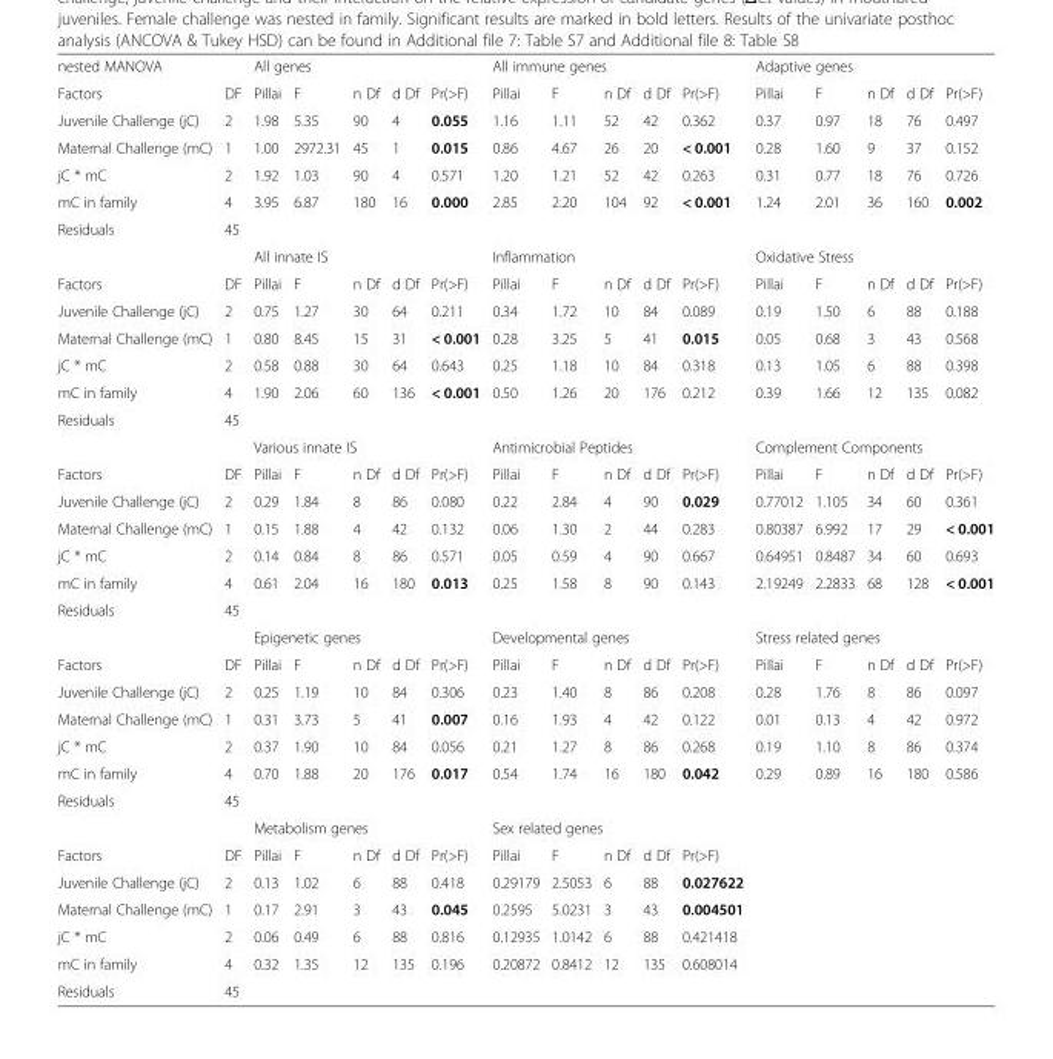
<table><tbody><tr><td>nested MANOVA</td><td></td><td colspan="5">All genes</td><td colspan="5">All immune genes</td><td colspan="5">Adaptive genes</td></tr><tr><td>Factors</td><td>DF</td><td>Pillai</td><td>F</td><td>n Df</td><td>d Df</td><td>Pr(&gt;F)</td><td>Pillai</td><td>F</td><td>n Df</td><td>d Df</td><td>Pr(&gt;F)</td><td>Pillai</td><td>F</td><td>n Df</td><td>d Df</td><td>Pr(&gt;F)</td></tr><tr><td>Juvenile Challenge (jC)</td><td>2</td><td>1.98</td><td>5.35</td><td>90</td><td>4</td><td>0.055</td><td>1.16</td><td>1.11</td><td>52</td><td>42</td><td>0.362</td><td>0.37</td><td>0.97</td><td>18</td><td>76</td><td>0.497</td></tr><tr><td>Maternal Challenge (mC)</td><td>1</td><td>1.00</td><td>2972.31</td><td>45</td><td>1</td><td>0.015</td><td>0.86</td><td>4.67</td><td>26</td><td>20</td><td>&lt; 0.001</td><td>0.28</td><td>1.60</td><td>9</td><td>37</td><td>0.152</td></tr><tr><td>jC * mC</td><td>2</td><td>1.92</td><td>1.03</td><td>90</td><td>4</td><td>0.571</td><td>1.20</td><td>1.21</td><td>52</td><td>42</td><td>0.263</td><td>0.31</td><td>0.77</td><td>18</td><td>76</td><td>0.726</td></tr><tr><td>mC in family</td><td>4</td><td>3.95</td><td>6.87</td><td>180</td><td>16</td><td>0.000</td><td>2.85</td><td>2.20</td><td>104</td><td>92</td><td>&lt; 0.001</td><td>1.24</td><td>2.01</td><td>36</td><td>160</td><td>0.002</td></tr><tr><td rowspan="2">Residuals</td><td>45</td><td></td><td></td><td></td><td></td><td></td><td></td><td></td><td></td><td></td><td></td><td></td><td></td><td></td><td></td><td></td></tr><tr><td></td><td colspan="5">All innate IS</td><td colspan="5">Inflammation</td><td colspan="5">Oxidative Stress</td></tr><tr><td>Factors</td><td>DF</td><td>Pillai</td><td>F</td><td>n Df</td><td>d Df</td><td>Pr(&gt;F)</td><td>Pillai</td><td>F</td><td>n Df</td><td>d Df</td><td>Pr(&gt;F)</td><td>Pillai</td><td>F</td><td>n Df</td><td>d Df</td><td>Pr(&gt;F)</td></tr><tr><td>Juvenile Challenge (jC)</td><td>2</td><td>0.75</td><td>1.27</td><td>30</td><td>64</td><td>0.211</td><td>0.34</td><td>1.72</td><td>10</td><td>84</td><td>0.089</td><td>0.19</td><td>1.50</td><td>6</td><td>88</td><td>0.188</td></tr><tr><td>Maternal Challenge (mC)</td><td>1</td><td>0.80</td><td>8.45</td><td>15</td><td>31</td><td>&lt; 0.001</td><td>0.28</td><td>3.25</td><td>5</td><td>41</td><td>0.015</td><td>0.05</td><td>0.68</td><td>3</td><td>43</td><td>0.568</td></tr><tr><td>jC * mC</td><td>2</td><td>0.58</td><td>0.88</td><td>30</td><td>64</td><td>0.643</td><td>0.25</td><td>1.18</td><td>10</td><td>84</td><td>0.318</td><td>0.13</td><td>1.05</td><td>6</td><td>88</td><td>0.398</td></tr><tr><td>mC in family</td><td>4</td><td>1.90</td><td>2.06</td><td>60</td><td>136</td><td>&lt; 0.001</td><td>0.50</td><td>1.26</td><td>20</td><td>176</td><td>0.212</td><td>0.39</td><td>1.66</td><td>12</td><td>135</td><td>0.082</td></tr><tr><td rowspan="2">Residuals</td><td>45</td><td></td><td></td><td></td><td></td><td></td><td></td><td></td><td></td><td></td><td></td><td></td><td></td><td></td><td></td><td></td></tr><tr><td></td><td colspan="5">Various innate IS</td><td colspan="5">Antimicrobial Peptides</td><td colspan="5">Complement Components</td></tr><tr><td>Factors</td><td>DF</td><td>Pillai</td><td>F</td><td>n Df</td><td>d Df</td><td>Pr(&gt;F)</td><td>Pillai</td><td>F</td><td>n Df</td><td>d Df</td><td>Pr(&gt;F)</td><td>Pillai</td><td>F</td><td>n Df</td><td>d Df</td><td>Pr(&gt;F)</td></tr><tr><td>Juvenile Challenge (jC)</td><td>2</td><td>0.29</td><td>1.84</td><td>8</td><td>86</td><td>0.080</td><td>0.22</td><td>2.84</td><td>4</td><td>90</td><td>0.029</td><td>0.77012</td><td>1.105</td><td>34</td><td>60</td><td>0.361</td></tr><tr><td>Maternal Challenge (mC)</td><td>1</td><td>0.15</td><td>1.88</td><td>4</td><td>42</td><td>0.132</td><td>0.06</td><td>1.30</td><td>2</td><td>44</td><td>0.283</td><td>0.80387</td><td>6.992</td><td>17</td><td>29</td><td>&lt; 0.001</td></tr><tr><td>jC * mC</td><td>2</td><td>0.14</td><td>0.84</td><td>8</td><td>86</td><td>0.571</td><td>0.05</td><td>0.59</td><td>4</td><td>90</td><td>0.667</td><td>0.64951</td><td>0.8487</td><td>34</td><td>60</td><td>0.693</td></tr><tr><td>mC in family</td><td>4</td><td>0.61</td><td>2.04</td><td>16</td><td>180</td><td>0.013</td><td>0.25</td><td>1.58</td><td>8</td><td>90</td><td>0.143</td><td>2.19249</td><td>2.2833</td><td>68</td><td>128</td><td>&lt; 0.001</td></tr><tr><td rowspan="2">Residuals</td><td>45</td><td></td><td></td><td></td><td></td><td></td><td></td><td></td><td></td><td></td><td></td><td></td><td></td><td></td><td></td><td></td></tr><tr><td></td><td colspan="5">Epigenetic genes</td><td colspan="5">Developmental genes</td><td colspan="5">Stress related genes</td></tr><tr><td>Factors</td><td>DF</td><td>Pillai</td><td>F</td><td>n Df</td><td>d Df</td><td>Pr(&gt;F)</td><td>Pillai</td><td>F</td><td>n Df</td><td>d Df</td><td>Pr(&gt;F)</td><td>Pillai</td><td>F</td><td>n Df</td><td>d Df</td><td>Pr(&gt;F)</td></tr><tr><td>Juvenile Challenge (jC)</td><td>2</td><td>0.25</td><td>1.19</td><td>10</td><td>84</td><td>0.306</td><td>0.23</td><td>1.40</td><td>8</td><td>86</td><td>0.208</td><td>0.28</td><td>1.76</td><td>8</td><td>86</td><td>0.097</td></tr><tr><td>Maternal Challenge (mC)</td><td>1</td><td>0.31</td><td>3.73</td><td>5</td><td>41</td><td>0.007</td><td>0.16</td><td>1.93</td><td>4</td><td>42</td><td>0.122</td><td>0.01</td><td>0.13</td><td>4</td><td>42</td><td>0.972</td></tr><tr><td>jC * mC</td><td>2</td><td>0.37</td><td>1.90</td><td>10</td><td>84</td><td>0.056</td><td>0.21</td><td>1.27</td><td>8</td><td>86</td><td>0.268</td><td>0.19</td><td>1.10</td><td>8</td><td>86</td><td>0.374</td></tr><tr><td>mC in family</td><td>4</td><td>0.70</td><td>1.88</td><td>20</td><td>176</td><td>0.017</td><td>0.54</td><td>1.74</td><td>16</td><td>180</td><td>0.042</td><td>0.29</td><td>0.89</td><td>16</td><td>180</td><td>0.586</td></tr><tr><td rowspan="2">Residuals</td><td>45</td><td></td><td></td><td></td><td></td><td></td><td></td><td></td><td></td><td></td><td></td><td></td><td></td><td></td><td></td><td></td></tr><tr><td></td><td colspan="5">Metabolism genes</td><td colspan="5">Sex related genes</td><td colspan="5"></td></tr><tr><td>Factors</td><td>DF</td><td>Pillai</td><td>F</td><td>n Df</td><td>d Df</td><td>Pr(&gt;F)</td><td>Pillai</td><td>F</td><td>n Df</td><td>d Df</td><td>Pr(&gt;F)</td><td></td><td></td><td></td><td></td><td></td></tr><tr><td>Juvenile Challenge (jC)</td><td>2</td><td>0.13</td><td>1.02</td><td>6</td><td>88</td><td>0.418</td><td>0.29179</td><td>2.5053</td><td>6</td><td>88</td><td>0.027622</td><td></td><td></td><td></td><td></td><td></td></tr><tr><td>Maternal Challenge (mC)</td><td>1</td><td>0.17</td><td>2.91</td><td>3</td><td>43</td><td>0.045</td><td>0.2595</td><td>5.0231</td><td>3</td><td>43</td><td>0.004501</td><td></td><td></td><td></td><td></td><td></td></tr><tr><td>jC * mC</td><td>2</td><td>0.06</td><td>0.49</td><td>6</td><td>88</td><td>0.816</td><td>0.12935</td><td>1.0142</td><td>6</td><td>88</td><td>0.421418</td><td></td><td></td><td></td><td></td><td></td></tr><tr><td>mC in family</td><td>4</td><td>0.32</td><td>1.35</td><td>12</td><td>135</td><td>0.196</td><td>0.20872</td><td>0.8412</td><td>12</td><td>135</td><td>0.608014</td><td></td><td></td><td></td><td></td><td></td></tr><tr><td>Residuals</td><td>45</td><td></td><td></td><td></td><td></td><td></td><td></td><td></td><td></td><td></td><td></td><td></td><td></td><td></td><td></td><td></td></tr></tbody></table>